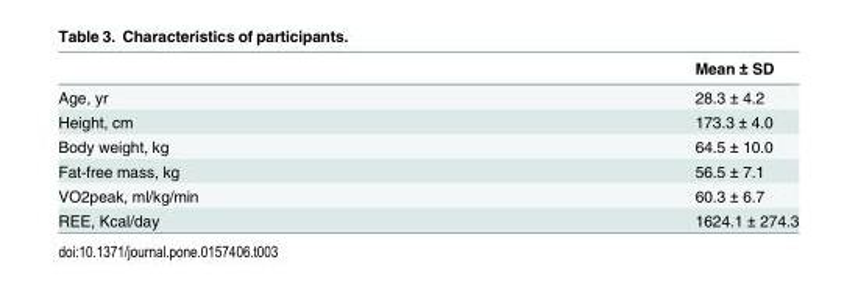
<table><thead><tr><td></td><td>Mean ± SD</td></tr></thead><tbody><tr><td>Age, yr</td><td>28.3 ± 4.2</td></tr><tr><td>Height, cm</td><td>173.3 ± 4.0</td></tr><tr><td>Body weight, kg</td><td>64.5 ± 10.0</td></tr><tr><td>Fat-free mass, kg</td><td>56.5 ± 7.1</td></tr><tr><td>VO2peak, ml/kg/min</td><td>60.3 ± 6.7</td></tr><tr><td>REE, Kcal/day</td><td>1624.1 ± 274.3</td></tr></tbody></table>